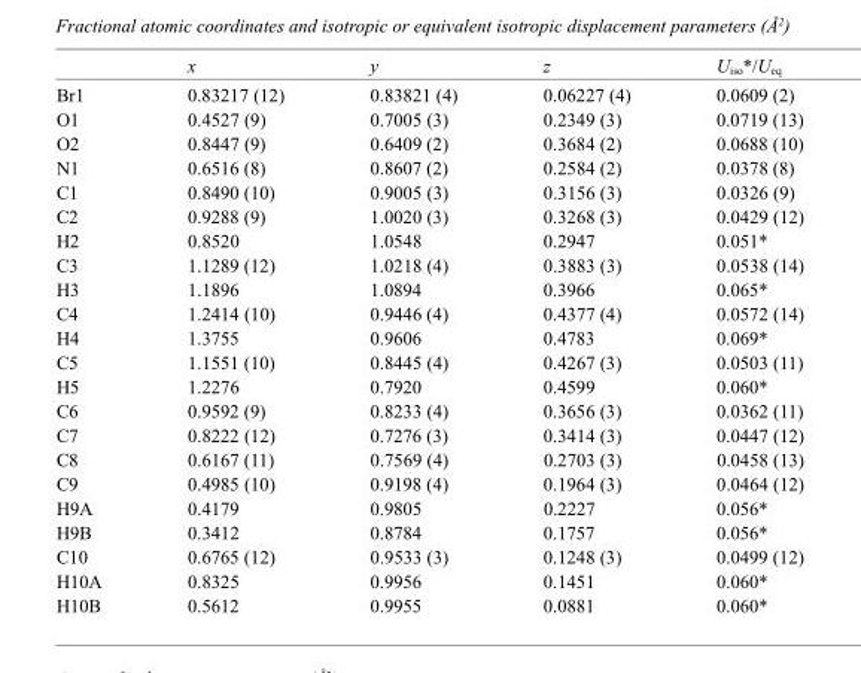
<table><thead><tr><td></td><td>x</td><td>y</td><td>z</td><td>U<sub>iso</sub>*/U<sub>eq</sub></td></tr></thead><tbody><tr><td>Br1</td><td>0.83217 (12)</td><td>0.83821 (4)</td><td>0.06227 (4)</td><td>0.0609 (2)</td></tr><tr><td>O1</td><td>0.4527 (9)</td><td>0.7005 (3)</td><td>0.2349 (3)</td><td>0.0719 (13)</td></tr><tr><td>O2</td><td>0.8447 (9)</td><td>0.6409 (2)</td><td>0.3684 (2)</td><td>0.0688 (10)</td></tr><tr><td>N1</td><td>0.6516 (8)</td><td>0.8607 (2)</td><td>0.2584 (2)</td><td>0.0378 (8)</td></tr><tr><td>C1</td><td>0.8490 (10)</td><td>0.9005 (3)</td><td>0.3156 (3)</td><td>0.0326 (9)</td></tr><tr><td>C2</td><td>0.9288 (9)</td><td>1.0020 (3)</td><td>0.3268 (3)</td><td>0.0429 (12)</td></tr><tr><td>H2</td><td>0.8520</td><td>1.0548</td><td>0.2947</td><td>0.051*</td></tr><tr><td>C3</td><td>1.1289 (12)</td><td>1.0218 (4)</td><td>0.3883 (3)</td><td>0.0538 (14)</td></tr><tr><td>H3</td><td>1.1896</td><td>1.0894</td><td>0.3966</td><td>0.065*</td></tr><tr><td>C4</td><td>1.2414 (10)</td><td>0.9446 (4)</td><td>0.4377 (4)</td><td>0.0572 (14)</td></tr><tr><td>H4</td><td>1.3755</td><td>0.9606</td><td>0.4783</td><td>0.069*</td></tr><tr><td>C5</td><td>1.1551 (10)</td><td>0.8445 (4)</td><td>0.4267 (3)</td><td>0.0503 (11)</td></tr><tr><td>H5</td><td>1.2276</td><td>0.7920</td><td>0.4599</td><td>0.060*</td></tr><tr><td>C6</td><td>0.9592 (9)</td><td>0.8233 (4)</td><td>0.3656 (3)</td><td>0.0362 (11)</td></tr><tr><td>C7</td><td>0.8222 (12)</td><td>0.7276 (3)</td><td>0.3414 (3)</td><td>0.0447 (12)</td></tr><tr><td>C8</td><td>0.6167 (11)</td><td>0.7569 (4)</td><td>0.2703 (3)</td><td>0.0458 (13)</td></tr><tr><td>C9</td><td>0.4985 (10)</td><td>0.9198 (4)</td><td>0.1964 (3)</td><td>0.0464 (12)</td></tr><tr><td>H9A</td><td>0.4179</td><td>0.9805</td><td>0.2227</td><td>0.056*</td></tr><tr><td>H9B</td><td>0.3412</td><td>0.8784</td><td>0.1757</td><td>0.056*</td></tr><tr><td>C10</td><td>0.6765 (12)</td><td>0.9533 (3)</td><td>0.1248 (3)</td><td>0.0499 (12)</td></tr><tr><td>H10A</td><td>0.8325</td><td>0.9956</td><td>0.1451</td><td>0.060*</td></tr><tr><td>H10B</td><td>0.5612</td><td>0.9955</td><td>0.0881</td><td>0.060*</td></tr></tbody></table>